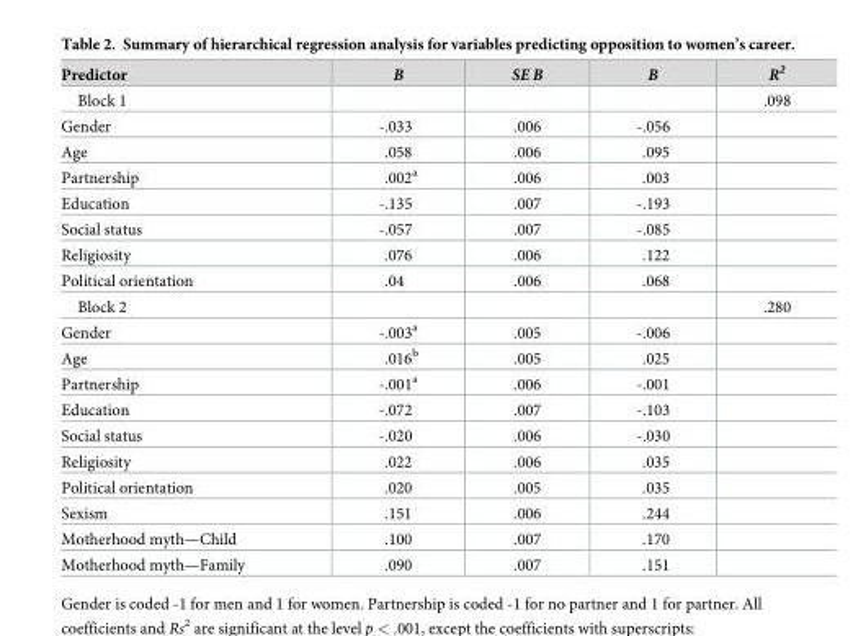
<table><thead><tr><td>Predictor</td><td>B</td><td>SE B</td><td>B</td><td>R<sup>2</sup></td></tr></thead><tbody><tr><td>Block 1</td><td></td><td></td><td></td><td>.098</td></tr><tr><td>Gender</td><td>-.033</td><td>.006</td><td>-.056</td><td></td></tr><tr><td>Age</td><td>.058</td><td>.006</td><td>.095</td><td></td></tr><tr><td>Partnership</td><td>.002<sup>a</sup></td><td>.006</td><td>.003</td><td></td></tr><tr><td>Education</td><td>-.135</td><td>.007</td><td>-.193</td><td></td></tr><tr><td>Social status</td><td>-.057</td><td>.007</td><td>-.085</td><td></td></tr><tr><td>Religiosity</td><td>.076</td><td>.006</td><td>.122</td><td></td></tr><tr><td>Political orientation</td><td>.04</td><td>.006</td><td>.068</td><td></td></tr><tr><td>Block 2</td><td></td><td></td><td></td><td>.280</td></tr><tr><td>Gender</td><td>-.003<sup>a</sup></td><td>.005</td><td>-.006</td><td></td></tr><tr><td>Age</td><td>.016<sup>b</sup></td><td>.005</td><td>.025</td><td></td></tr><tr><td>Partnership</td><td>-.001<sup>a</sup></td><td>.006</td><td>-.001</td><td></td></tr><tr><td>Education</td><td>-.072</td><td>.007</td><td>-.103</td><td></td></tr><tr><td>Social status</td><td>-.020</td><td>.006</td><td>-.030</td><td></td></tr><tr><td>Religiosity</td><td>.022</td><td>.006</td><td>.035</td><td></td></tr><tr><td>Political orientation</td><td>.020</td><td>.005</td><td>.035</td><td></td></tr><tr><td>Sexism</td><td>.151</td><td>.006</td><td>.244</td><td></td></tr><tr><td>Motherhood myth—Child</td><td>.100</td><td>.007</td><td>.170</td><td></td></tr><tr><td>Motherhood myth—Family</td><td>.090</td><td>.007</td><td>.151</td><td></td></tr></tbody></table>